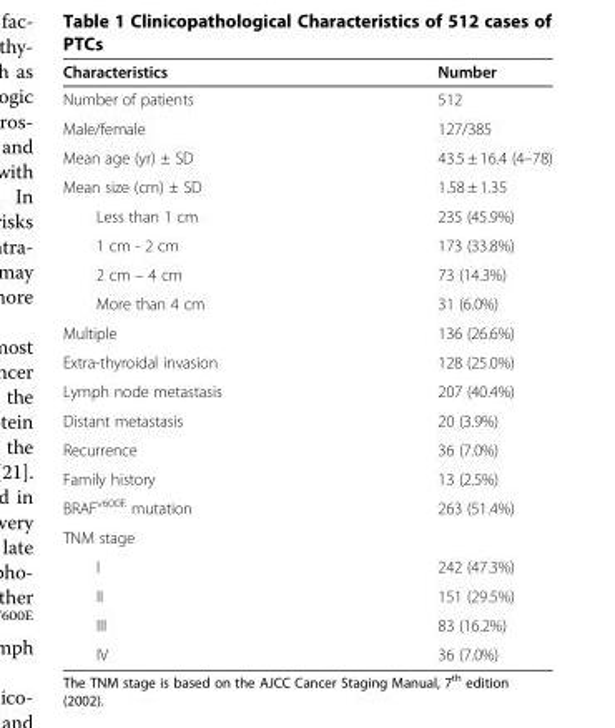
<table><thead><tr><td>Characteristics</td><td>Number</td></tr></thead><tbody><tr><td>Number of patients</td><td>512</td></tr><tr><td>Male/female</td><td>127/385</td></tr><tr><td>Mean age (yr) ± SD</td><td>43.5 ± 16.4 (4–78)</td></tr><tr><td>Mean size (cm) ± SD</td><td>1.58 ± 1.35</td></tr><tr><td>Less than 1 cm</td><td>235 (45.9%)</td></tr><tr><td>1 cm - 2 cm</td><td>173 (33.8%)</td></tr><tr><td>2 cm – 4 cm</td><td>73 (14.3%)</td></tr><tr><td>More than 4 cm</td><td>31 (6.0%)</td></tr><tr><td>Multiple</td><td>136 (26.6%)</td></tr><tr><td>Extra-thyroidal invasion</td><td>128 (25.0%)</td></tr><tr><td>Lymph node metastasis</td><td>207 (40.4%)</td></tr><tr><td>Distant metastasis</td><td>20 (3.9%)</td></tr><tr><td>Recurrence</td><td>36 (7.0%)</td></tr><tr><td>Family history</td><td>13 (2.5%)</td></tr><tr><td>BRAF<sup>v600E</sup> mutation</td><td>263 (51.4%)</td></tr><tr><td colspan="2">TNM stage</td></tr><tr><td>I</td><td>242 (47.3%)</td></tr><tr><td>II</td><td>151 (29.5%)</td></tr><tr><td>III</td><td>83 (16.2%)</td></tr><tr><td>IV</td><td>36 (7.0%)</td></tr></tbody></table>